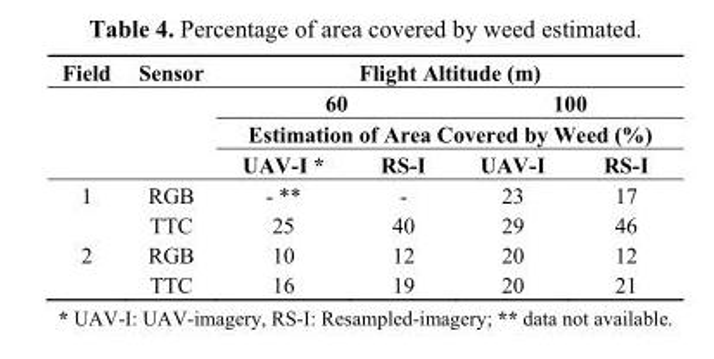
<table><thead><tr><td rowspan="4">Field</td><td rowspan="4">Sensor</td><td colspan="4">Flight Altitude (m)</td></tr><tr><td colspan="2">60</td><td colspan="2">100</td></tr><tr><td colspan="4">Estimation of Area Covered by Weed (%)</td></tr><tr><td>UAV-I *</td><td>RS-I</td><td>UAV-I</td><td>RS-I</td></tr></thead><tbody><tr><td rowspan="2">1</td><td>RGB</td><td>- **</td><td>-</td><td>23</td><td>17</td></tr><tr><td>TTC</td><td>25</td><td>40</td><td>29</td><td>46</td></tr><tr><td rowspan="2">2</td><td>RGB</td><td>10</td><td>12</td><td>20</td><td>12</td></tr><tr><td>TTC</td><td>16</td><td>19</td><td>20</td><td>21</td></tr></tbody></table>